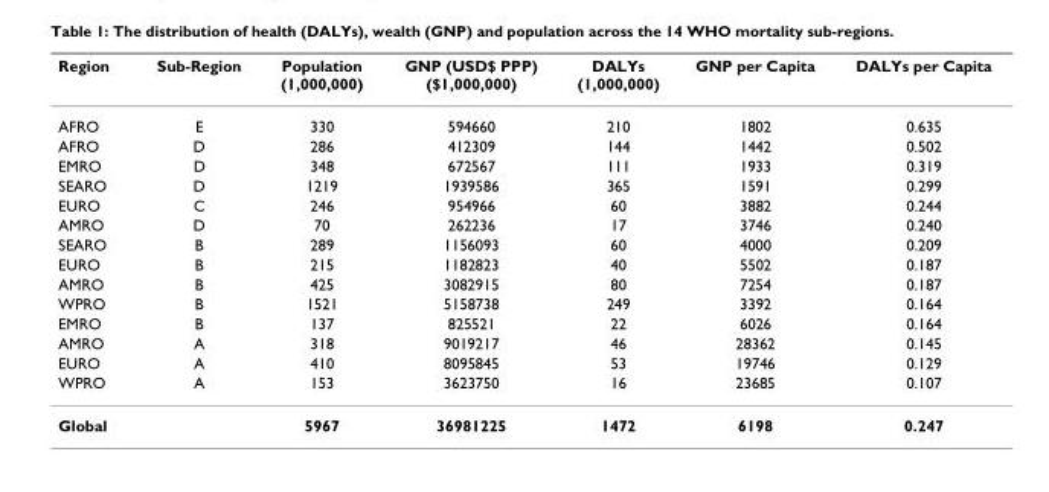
<table><thead><tr><td>Region</td><td>Sub-Region</td><td>Population (1,000,000)</td><td>GNP (USD$ PPP) ($1,000,000)</td><td>DALYs (1,000,000)</td><td>GNP per Capita</td><td>DALYs per Capita</td></tr></thead><tbody><tr><td>AFRO</td><td>E</td><td>330</td><td>594660</td><td>210</td><td>1802</td><td>0.635</td></tr><tr><td>AFRO</td><td>D</td><td>286</td><td>412309</td><td>144</td><td>1442</td><td>0.502</td></tr><tr><td>EMRO</td><td>D</td><td>348</td><td>672567</td><td>111</td><td>1933</td><td>0.319</td></tr><tr><td>SEARO</td><td>D</td><td>1219</td><td>1939586</td><td>365</td><td>1591</td><td>0.299</td></tr><tr><td>EURO</td><td>C</td><td>246</td><td>954966</td><td>60</td><td>3882</td><td>0.244</td></tr><tr><td>AMRO</td><td>D</td><td>70</td><td>262236</td><td>17</td><td>3746</td><td>0.240</td></tr><tr><td>SEARO</td><td>B</td><td>289</td><td>1156093</td><td>60</td><td>4000</td><td>0.209</td></tr><tr><td>EURO</td><td>B</td><td>215</td><td>1182823</td><td>40</td><td>5502</td><td>0.187</td></tr><tr><td>AMRO</td><td>B</td><td>425</td><td>3082915</td><td>80</td><td>7254</td><td>0.187</td></tr><tr><td>WPRO</td><td>B</td><td>1521</td><td>5158738</td><td>249</td><td>3392</td><td>0.164</td></tr><tr><td>EMRO</td><td>B</td><td>137</td><td>825521</td><td>22</td><td>6026</td><td>0.164</td></tr><tr><td>AMRO</td><td>A</td><td>318</td><td>9019217</td><td>46</td><td>28362</td><td>0.145</td></tr><tr><td>EURO</td><td>A</td><td>410</td><td>8095845</td><td>53</td><td>19746</td><td>0.129</td></tr><tr><td>WPRO</td><td>A</td><td>153</td><td>3623750</td><td>16</td><td>23685</td><td>0.107</td></tr><tr><td>Global</td><td></td><td>5967</td><td>36981225</td><td>1472</td><td>6198</td><td>0.247</td></tr></tbody></table>